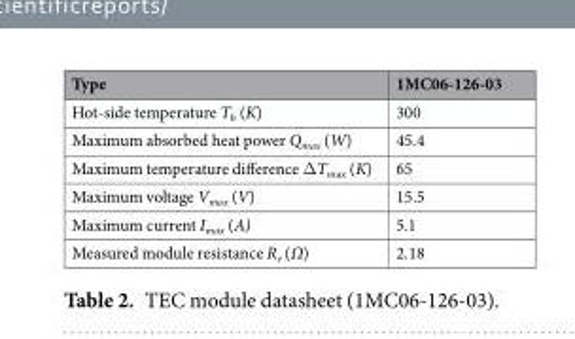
<table><thead><tr><td>Type</td><td>1MC06-126-03</td></tr></thead><tbody><tr><td>Hot-side temperature T<sub>h</sub> (K)</td><td>300</td></tr><tr><td>Maximum absorbed heat power Q<sub>max</sub> (W)</td><td>45.4</td></tr><tr><td>Maximum temperature difference ΔT<sub>max</sub> (K)</td><td>65</td></tr><tr><td>Maximum voltage V<sub>max</sub> (V)</td><td>15.5</td></tr><tr><td>Maximum current I<sub>max</sub> (A)</td><td>5.1</td></tr><tr><td>Measured module resistance R<sub>e</sub> (Ω)</td><td>2.18</td></tr></tbody></table>